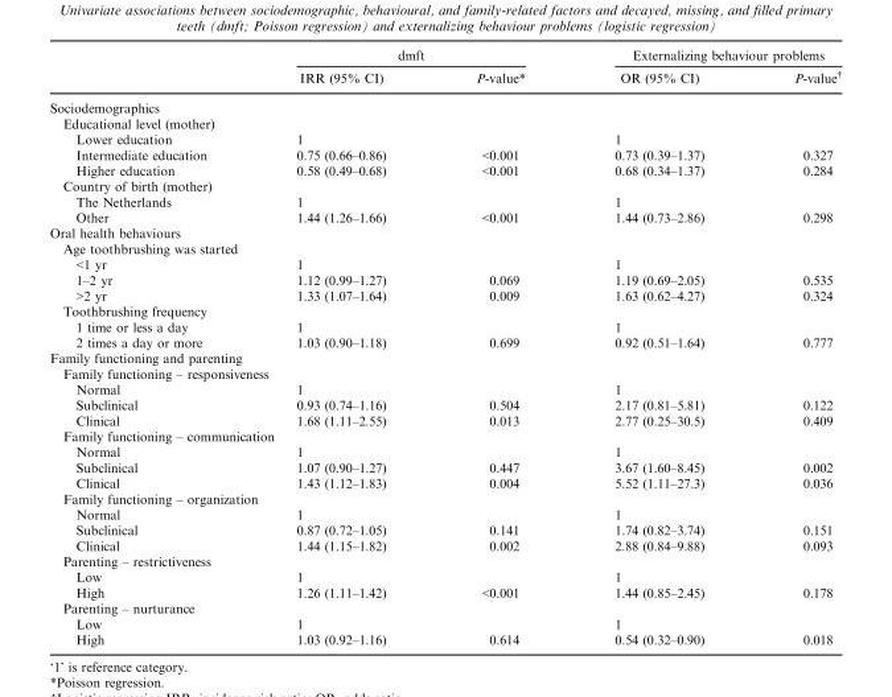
<table><thead><tr><td rowspan="2"></td><td colspan="2">dmft</td><td colspan="2">Externalizing behaviour problems</td></tr><tr><td>IRR (95% CI)</td><td>P-value*</td><td>OR (95% CI)</td><td>P-value†</td></tr></thead><tbody><tr><td colspan="5">Sociodemographics</td></tr><tr><td colspan="5">Educational level (mother)</td></tr><tr><td>Lower education</td><td>1</td><td></td><td>1</td><td></td></tr><tr><td>Intermediate education</td><td>0.75 (0.66–0.86)</td><td>&lt;0.001</td><td>0.73 (0.39–1.37)</td><td>0.327</td></tr><tr><td>Higher education</td><td>0.58 (0.49–0.68)</td><td>&lt;0.001</td><td>0.68 (0.34–1.37)</td><td>0.284</td></tr><tr><td colspan="5">Country of birth (mother)</td></tr><tr><td>The Netherlands</td><td>1</td><td></td><td>1</td><td></td></tr><tr><td>Other</td><td>1.44 (1.26–1.66)</td><td>&lt;0.001</td><td>1.44 (0.73–2.86)</td><td>0.298</td></tr><tr><td colspan="5">Oral health behaviours</td></tr><tr><td colspan="5">Age toothbrushing was started</td></tr><tr><td>&lt;1 yr</td><td>1</td><td></td><td>1</td><td></td></tr><tr><td>1–2 yr</td><td>1.12 (0.99–1.27)</td><td>0.069</td><td>1.19 (0.69–2.05)</td><td>0.535</td></tr><tr><td>&gt;2 yr</td><td>1.33 (1.07–1.64)</td><td>0.009</td><td>1.63 (0.62–4.27)</td><td>0.324</td></tr><tr><td colspan="5">Toothbrushing frequency</td></tr><tr><td>1 time or less a day</td><td>1</td><td></td><td>1</td><td></td></tr><tr><td>2 times a day or more</td><td>1.03 (0.90–1.18)</td><td>0.699</td><td>0.92 (0.51–1.64)</td><td>0.777</td></tr><tr><td colspan="5">Family functioning and parenting</td></tr><tr><td colspan="5">Family functioning – responsiveness</td></tr><tr><td>Normal</td><td>1</td><td></td><td>1</td><td></td></tr><tr><td>Subclinical</td><td>0.93 (0.74–1.16)</td><td>0.504</td><td>2.17 (0.81–5.81)</td><td>0.122</td></tr><tr><td>Clinical</td><td>1.68 (1.11–2.55)</td><td>0.013</td><td>2.77 (0.25–30.5)</td><td>0.409</td></tr><tr><td colspan="5">Family functioning – communication</td></tr><tr><td>Normal</td><td>1</td><td></td><td>1</td><td></td></tr><tr><td>Subclinical</td><td>1.07 (0.90–1.27)</td><td>0.447</td><td>3.67 (1.60–8.45)</td><td>0.002</td></tr><tr><td>Clinical</td><td>1.43 (1.12–1.83)</td><td>0.004</td><td>5.52 (1.11–27.3)</td><td>0.036</td></tr><tr><td colspan="5">Family functioning – organization</td></tr><tr><td>Normal</td><td>1</td><td></td><td>1</td><td></td></tr><tr><td>Subclinical</td><td>0.87 (0.72–1.05)</td><td>0.141</td><td>1.74 (0.82–3.74)</td><td>0.151</td></tr><tr><td>Clinical</td><td>1.44 (1.15–1.82)</td><td>0.002</td><td>2.88 (0.84–9.88)</td><td>0.093</td></tr><tr><td colspan="5">Parenting – restrictiveness</td></tr><tr><td>Low</td><td>1</td><td></td><td>1</td><td></td></tr><tr><td>High</td><td>1.26 (1.11–1.42)</td><td>&lt;0.001</td><td>1.44 (0.85–2.45)</td><td>0.178</td></tr><tr><td colspan="5">Parenting – nurturance</td></tr><tr><td>Low</td><td>1</td><td></td><td>1</td><td></td></tr><tr><td>High</td><td>1.03 (0.92–1.16)</td><td>0.614</td><td>0.54 (0.32–0.90)</td><td>0.018</td></tr></tbody></table>